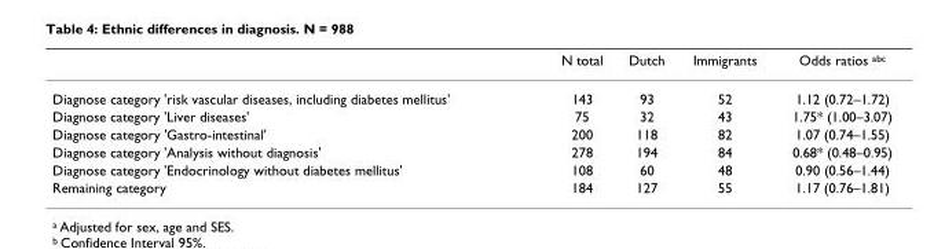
<table><thead><tr><td></td><td>N total</td><td>Dutch</td><td>Immigrants</td><td>Odds ratios <sup>abc</sup></td></tr></thead><tbody><tr><td>Diagnose category &#x27;risk vascular diseases, including diabetes mellitus&#x27;</td><td>143</td><td>93</td><td>52</td><td>1.12 (0.72–1.72)</td></tr><tr><td>Diagnose category &#x27;Liver diseases&#x27;</td><td>75</td><td>32</td><td>43</td><td>1.75* (1.00–3.07)</td></tr><tr><td>Diagnose category &#x27;Gastro-intestinal&#x27;</td><td>200</td><td>118</td><td>82</td><td>1.07 (0.74–1.55)</td></tr><tr><td>Diagnose category &#x27;Analysis without diagnosis&#x27;</td><td>278</td><td>194</td><td>84</td><td>0.68* (0.48–0.95)</td></tr><tr><td>Diagnose category &#x27;Endocrinology without diabetes mellitus&#x27;</td><td>108</td><td>60</td><td>48</td><td>0.90 (0.56–1.44)</td></tr><tr><td>Remaining category</td><td>184</td><td>127</td><td>55</td><td>1.17 (0.76–1.81)</td></tr></tbody></table>